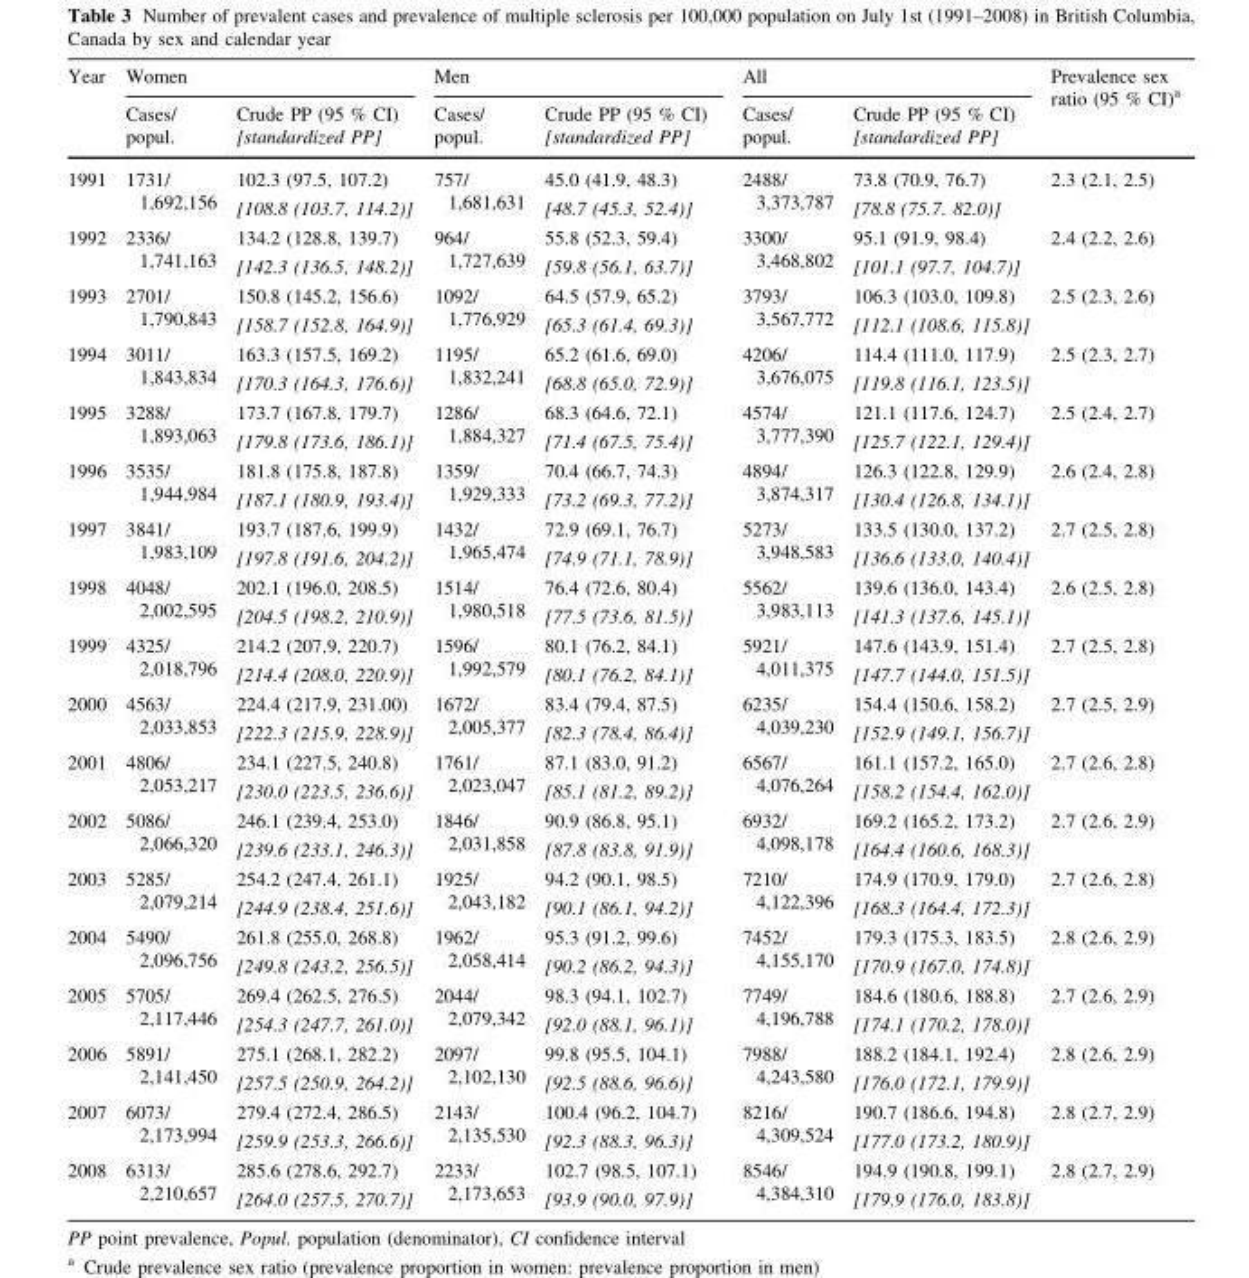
<table><thead><tr><td rowspan="2">Year</td><td colspan="2">Women</td><td colspan="2">Men</td><td colspan="2">All</td><td rowspan="2">Prevalence sex ratio (95 % CI)<sup>a</sup></td></tr><tr><td>Cases/ popul.</td><td>Crude PP (95 % CI) [standardized PP]</td><td>Cases/ popul.</td><td>Crude PP (95 % CI) [standardized PP]</td><td>Cases/ popul.</td><td>Crude PP (95 % CI) [standardized PP]</td></tr></thead><tbody><tr><td>1991</td><td>1731/ 1,692,156</td><td>102.3 (97.5, 107.2) [108.8 (103.7, 114.2)]</td><td>757/ 1,681,631</td><td>45.0 (41.9, 48.3) [48.7 (45.3, 52.4)]</td><td>2488/ 3,373,787</td><td>73.8 (70.9, 76.7) [78.8 (75.7. 82.0)]</td><td>2.3 (2.1, 2.5)</td></tr><tr><td>1992</td><td>2336/ 1,741,163</td><td>134.2 (128.8, 139.7) [142.3 (136.5, 148.2)]</td><td>964/ 1,727,639</td><td>55.8 (52.3, 59.4) [59.8 (56.1, 63.7)]</td><td>3300/ 3,468,802</td><td>95.1 (91.9, 98.4) [101.1 (97.7, 104.7)]</td><td>2.4 (2.2, 2.6)</td></tr><tr><td>1993</td><td>2701/ 1,790,843</td><td>150.8 (145.2, 156.6) [158.7 (152.8, 164.9)]</td><td>1092/ 1,776,929</td><td>64.5 (57.9, 65.2) [65.3 (61.4, 69.3)]</td><td>3793/ 3,567,772</td><td>106.3 (103.0, 109.8) [112.1 (108.6, 115.8)]</td><td>2.5 (2.3, 2.6)</td></tr><tr><td>1994</td><td>3011/ 1,843,834</td><td>163.3 (157.5, 169.2) [170.3 (164.3, 176.6)]</td><td>1195/ 1,832,241</td><td>65.2 (61.6, 69.0) [68.8 (65.0, 72.9)]</td><td>4206/ 3,676,075</td><td>114.4 (111.0, 117.9) [119.8 (116.1, 123.5)]</td><td>2.5 (2.3, 2.7)</td></tr><tr><td>1995</td><td>3288/ 1,893,063</td><td>173.7 (167.8, 179.7) [179.8 (173.6, 186.1)]</td><td>1286/ 1,884,327</td><td>68.3 (64.6, 72.1) [71.4 (67.5, 75.4)]</td><td>4574/ 3,777,390</td><td>121.1 (117.6, 124.7) [125.7 (122.1, 129.4)]</td><td>2.5 (2.4, 2.7)</td></tr><tr><td>1996</td><td>3535/ 1,944,984</td><td>181.8 (175.8, 187.8) [187.1 (180.9, 193.4)]</td><td>1359/ 1,929,333</td><td>70.4 (66.7, 74.3) [73.2 (69.3, 77.2)]</td><td>4894/ 3,874,317</td><td>126.3 (122.8, 129.9) [130.4 (126.8, 134.1)]</td><td>2.6 (2.4, 2.8)</td></tr><tr><td>1997</td><td>3841/ 1,983,109</td><td>193.7 (187.6, 199.9) [197.8 (191.6, 204.2)]</td><td>1432/ 1,965,474</td><td>72.9 (69.1, 76.7) [74.9 (71.1, 78.9)]</td><td>5273/ 3,948,583</td><td>133.5 (130.0, 137.2) [136.6 (133.0, 140.4)]</td><td>2.7 (2.5, 2.8)</td></tr><tr><td>1998</td><td>4048/ 2,002,595</td><td>202.1 (196.0, 208.5) [204.5 (198.2, 210.9)]</td><td>1514/ 1,980,518</td><td>76.4 (72.6, 80.4) [77.5 (73.6, 81.5)]</td><td>5562/ 3,983,113</td><td>139.6 (136.0, 143.4) [141.3 (137.6, 145.1)]</td><td>2.6 (2.5, 2.8)</td></tr><tr><td>1999</td><td>4325/ 2,018,796</td><td>214.2 (207.9, 220.7) [214.4 (208.0, 220.9)]</td><td>1596/ 1,992,579</td><td>80.1 (76.2, 84.1) [80.1 (76.2, 84.1)]</td><td>5921/ 4,011,375</td><td>147.6 (143.9, 151.4) [147.7 (144.0, 151.5)]</td><td>2.7 (2.5, 2.8)</td></tr><tr><td>2000</td><td>4563/ 2,033,853</td><td>224.4 (217.9, 231.00) [222.3 (215.9, 228.9)]</td><td>1672/ 2,005,377</td><td>83.4 (79.4, 87.5) [82.3 (78.4, 86.4)]</td><td>6235/ 4,039,230</td><td>154.4 (150.6, 158.2) [152.9 (149.1, 156.7)]</td><td>2.7 (2.5, 2.9)</td></tr><tr><td>2001</td><td>4806/ 2,053,217</td><td>234.1 (227.5, 240.8) [230.0 (223.5, 236.6)]</td><td>1761/ 2,023,047</td><td>87.1 (83.0, 91.2) [85.1 (81.2, 89.2)]</td><td>6567/ 4,076,264</td><td>161.1 (157.2, 165.0) [158.2 (154.4, 162.0)]</td><td>2.7 (2.6, 2.8)</td></tr><tr><td>2002</td><td>5086/ 2,066,320</td><td>246.1 (239.4, 253.0) [239.6 (233.1, 246.3)]</td><td>1846/ 2,031,858</td><td>90.9 (86.8, 95.1) [87.8 (83.8, 91.9)]</td><td>6932/ 4,098,178</td><td>169.2 (165.2, 173.2) [164.4 (160.6, 168.3)]</td><td>2.7 (2.6, 2.9)</td></tr><tr><td>2003</td><td>5285/ 2,079,214</td><td>254.2 (247.4, 261.1) [244.9 (238.4, 251.6)]</td><td>1925/ 2,043,182</td><td>94.2 (90.1, 98.5) [90.1 (86.1, 94.2)]</td><td>7210/ 4,122,396</td><td>174.9 (170.9, 179.0) [168.3 (164.4, 172.3)]</td><td>2.7 (2.6, 2.8)</td></tr><tr><td>2004</td><td>5490/ 2,096,756</td><td>261.8 (255.0, 268.8) [249.8 (243.2, 256.5)]</td><td>1962/ 2,058,414</td><td>95.3 (91.2, 99.6) [90.2 (86.2, 94.3)]</td><td>7452/ 4,155,170</td><td>179.3 (175.3, 183.5) [170.9 (167.0, 174.8)]</td><td>2.8 (2.6, 2.9)</td></tr><tr><td>2005</td><td>5705/ 2,117,446</td><td>269.4 (262.5, 276.5) [254.3 (247.7, 261.0)]</td><td>2044/ 2,079,342</td><td>98.3 (94.1, 102.7) [92.0 (88.1, 96.1)]</td><td>7749/ 4,196,788</td><td>184.6 (180.6, 188.8) [174.1 (170.2, 178.0)]</td><td>2.7 (2.6, 2.9)</td></tr><tr><td>2006</td><td>5891/ 2,141,450</td><td>275.1 (268.1, 282.2) [257.5 (250.9, 264.2)]</td><td>2097/ 2,102,130</td><td>99.8 (95.5, 104.1) [92.5 (88.6, 96.6)]</td><td>7988/ 4,243,580</td><td>188.2 (184.1, 192.4) [176.0 (172.1, 179.9)]</td><td>2.8 (2.6, 2.9)</td></tr><tr><td>2007</td><td>6073/ 2,173,994</td><td>279.4 (272.4, 286.5) [259.9 (253.3, 266.6)]</td><td>2143/ 2,135,530</td><td>100.4 (96.2, 104.7) [92.3 (88.3, 96.3)]</td><td>8216/ 4,309,524</td><td>190.7 (186.6, 194.8) [177.0 (173.2, 180.9)]</td><td>2.8 (2.7, 2.9)</td></tr><tr><td>2008</td><td>6313/ 2,210,657</td><td>285.6 (278.6, 292.7) [264.0 (257.5, 270.7)]</td><td>2233/ 2,173,653</td><td>102.7 (98.5, 107.1) [93.9 (90.0, 97.9)]</td><td>8546/ 4,384,310</td><td>194.9 (190.8, 199.1) [179.9 (176.0, 183.8)]</td><td>2.8 (2.7, 2.9)</td></tr></tbody></table>